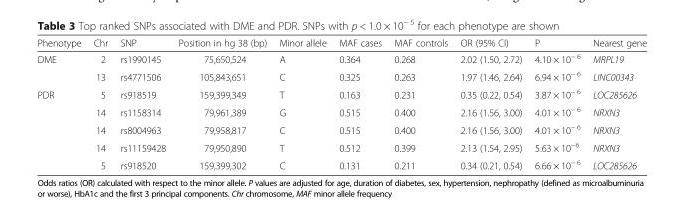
<table><thead><tr><td>Phenotype</td><td>Chr</td><td>SNP</td><td>Position in hg 38 (bp)</td><td>Minor allele</td><td>MAF cases</td><td>MAF controls</td><td>OR (95% CI)</td><td>P</td><td>Nearest gene</td></tr></thead><tbody><tr><td rowspan="2">DME</td><td>2</td><td>rs1990145</td><td>75,650,524</td><td>A</td><td>0.364</td><td>0.268</td><td>2.02 (1.50, 2.72)</td><td>4.10 × 10<sup>− 6</sup></td><td>MRPL19</td></tr><tr><td>13</td><td>rs4771506</td><td>105,843,651</td><td>C</td><td>0.325</td><td>0.263</td><td>1.97 (1.46, 2.64)</td><td>6.94 × 10<sup>− 6</sup></td><td>LINC00343</td></tr><tr><td rowspan="5">PDR</td><td>5</td><td>rs918519</td><td>159,399,349</td><td>T</td><td>0.163</td><td>0.231</td><td>0.35 (0.22, 0.54)</td><td>3.87 × 10<sup>− 6</sup></td><td>LOC285626</td></tr><tr><td>14</td><td>rs1158314</td><td>79,961,389</td><td>G</td><td>0.515</td><td>0.400</td><td>2.16 (1.56, 3.00)</td><td>4.01 × 10<sup>− 6</sup></td><td>NRXN3</td></tr><tr><td>14</td><td>rs8004963</td><td>79,958,817</td><td>C</td><td>0.515</td><td>0.400</td><td>2.16 (1.56, 3.00)</td><td>4.01 × 10<sup>− 6</sup></td><td>NRXN3</td></tr><tr><td>14</td><td>rs11159428</td><td>79,950,890</td><td>T</td><td>0.512</td><td>0.399</td><td>2.13 (1.54, 2.95)</td><td>5.63 × 10<sup>−6</sup></td><td>NRXN3</td></tr><tr><td>5</td><td>rs918520</td><td>159,399,302</td><td>C</td><td>0.131</td><td>0.211</td><td>0.34 (0.21, 0.54)</td><td>6.66 × 10<sup>− 6</sup></td><td>LOC285626</td></tr></tbody></table>